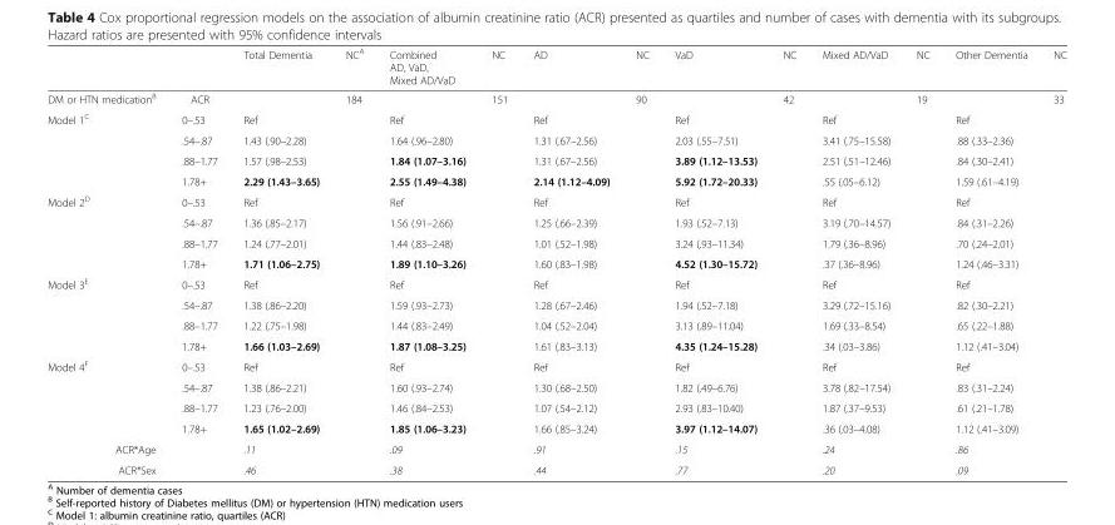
<table><thead><tr><td></td><td></td><td>Total Dementia</td><td>NC<sup>A</sup></td><td>Combined AD, VaD, Mixed AD/VaD</td><td>NC</td><td>AD</td><td>NC</td><td>VaD</td><td>NC</td><td>Mixed AD/VaD</td><td>NC</td><td>Other Dementia</td><td>NC</td></tr></thead><tbody><tr><td>DM or HTN medication<sup>B</sup></td><td>ACR</td><td></td><td>184</td><td></td><td>151</td><td></td><td>90</td><td></td><td>42</td><td></td><td>19</td><td></td><td>33</td></tr><tr><td rowspan="4">Model 1<sup>C</sup></td><td>0–.53</td><td>Ref</td><td></td><td>Ref</td><td></td><td>Ref</td><td></td><td>Ref</td><td></td><td>Ref</td><td></td><td>Ref</td><td></td></tr><tr><td>.54–.87</td><td>1.43 (.90–2.28)</td><td></td><td>1.64 (.96–2.80)</td><td></td><td>1.31 (.67–2.56)</td><td></td><td>2.03 (.55–7.51)</td><td></td><td>3.41 (.75–15.58)</td><td></td><td>.88 (.33–2.36)</td><td></td></tr><tr><td>.88–1.77</td><td>1.57 (.98–2.53)</td><td></td><td>1.84 (1.07–3.16)</td><td></td><td>1.31 (.67–2.56)</td><td></td><td>3.89 (1.12–13.53)</td><td></td><td>2.51 (.51–12.46)</td><td></td><td>.84 (.30–2.41)</td><td></td></tr><tr><td>1.78+</td><td>2.29 (1.43–3.65)</td><td></td><td>2.55 (1.49–4.38)</td><td></td><td>2.14 (1.12–4.09)</td><td></td><td>5.92 (1.72–20.33)</td><td></td><td>.55 (.05–6.12)</td><td></td><td>1.59 (.61–4.19)</td><td></td></tr><tr><td rowspan="4">Model 2<sup>D</sup></td><td>0–.53</td><td>Ref</td><td></td><td>Ref</td><td></td><td>Ref</td><td></td><td>Ref</td><td></td><td>Ref</td><td></td><td>Ref</td><td></td></tr><tr><td>.54–.87</td><td>1.36 (.85–2.17)</td><td></td><td>1.56 (.91–2.66)</td><td></td><td>1.25 (.66–2.39)</td><td></td><td>1.93 (.52–7.13)</td><td></td><td>3.19 (.70–14.57)</td><td></td><td>.84 (.31–2.26)</td><td></td></tr><tr><td>.88–1.77</td><td>1.24 (.77–2.01)</td><td></td><td>1.44 (.83–2.48)</td><td></td><td>1.01 (.52–1.98)</td><td></td><td>3.24 (.93–11.34)</td><td></td><td>1.79 (.36–8.96)</td><td></td><td>.70 (.24–2.01)</td><td></td></tr><tr><td>1.78+</td><td>1.71 (1.06–2.75)</td><td></td><td>1.89 (1.10–3.26)</td><td></td><td>1.60 (.83–1.98)</td><td></td><td>4.52 (1.30–15.72)</td><td></td><td>.37 (.36–8.96)</td><td></td><td>1.24 (.46–3.31)</td><td></td></tr><tr><td rowspan="4">Model 3<sup>E</sup></td><td>0–.53</td><td>Ref</td><td></td><td>Ref</td><td></td><td>Ref</td><td></td><td>Ref</td><td></td><td>Ref</td><td></td><td>Ref</td><td></td></tr><tr><td>.54–.87</td><td>1.38 (.86–2.20)</td><td></td><td>1.59 (.93–2.73)</td><td></td><td>1.28 (.67–2.46)</td><td></td><td>1.94 (.52–7.18)</td><td></td><td>3.29 (.72–15.16)</td><td></td><td>.82 (.30–2.21)</td><td></td></tr><tr><td>.88–1.77</td><td>1.22 (.75–1.98)</td><td></td><td>1.44 (.83–2.49)</td><td></td><td>1.04 (.52–2.04)</td><td></td><td>3.13 (.89–11.04)</td><td></td><td>1.69 (.33–8.54)</td><td></td><td>.65 (.22–1.88)</td><td></td></tr><tr><td>1.78+</td><td>1.66 (1.03–2.69)</td><td></td><td>1.87 (1.08–3.25)</td><td></td><td>1.61 (.83–3.13)</td><td></td><td>4.35 (1.24–15.28)</td><td></td><td>.34 (.03–3.86)</td><td></td><td>1.12 (.41–3.04)</td><td></td></tr><tr><td rowspan="4">Model 4<sup>F</sup></td><td>0–.53</td><td>Ref</td><td></td><td>Ref</td><td></td><td>Ref</td><td></td><td>Ref</td><td></td><td>Ref</td><td></td><td>Ref</td><td></td></tr><tr><td>.54–.87</td><td>1.38 (.86–2.21)</td><td></td><td>1.60 (.93–2.74)</td><td></td><td>1.30 (.68–2.50)</td><td></td><td>1.82 (.49–6.76)</td><td></td><td>3.78 (.82–17.54)</td><td></td><td>.83 (.31–2.24)</td><td></td></tr><tr><td>.88–1.77</td><td>1.23 (.76–2.00)</td><td></td><td>1.46 (.84–2.53)</td><td></td><td>1.07 (.54–2.12)</td><td></td><td>2.93 (.83–10.40)</td><td></td><td>1.87 (.37–9.53)</td><td></td><td>.61 (.21–1.78)</td><td></td></tr><tr><td>1.78+</td><td>1.65 (1.02–2.69)</td><td></td><td>1.85 (1.06–3.23)</td><td></td><td>1.66 (.85–3.24)</td><td></td><td>3.97 (1.12–14.07)</td><td></td><td>.36 (.03–4.08)</td><td></td><td>1.12 (.41–3.09)</td><td></td></tr><tr><td>ACR*Age</td><td></td><td>.11</td><td></td><td>.09</td><td></td><td>.91</td><td></td><td>.15</td><td></td><td>.24</td><td></td><td>.86</td><td></td></tr><tr><td>ACR*Sex</td><td></td><td>.46</td><td></td><td>.38</td><td></td><td>.44</td><td></td><td>.77</td><td></td><td>.20</td><td></td><td>.09</td><td></td></tr></tbody></table>